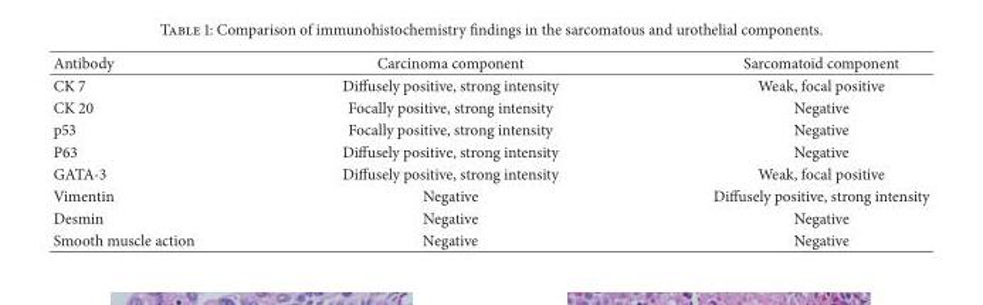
<table><thead><tr><td>Antibody</td><td>Carcinoma component</td><td>Sarcomatoid component</td></tr></thead><tbody><tr><td>CK 7</td><td>Diffusely positive, strong intensity</td><td>Weak, focal positive</td></tr><tr><td>CK 20</td><td>Focally positive, strong intensity</td><td>Negative</td></tr><tr><td>p53</td><td>Focally positive, strong intensity</td><td>Negative</td></tr><tr><td>P63</td><td>Diffusely positive, strong intensity</td><td>Negative</td></tr><tr><td>GATA-3</td><td>Diffusely positive, strong intensity</td><td>Weak, focal positive</td></tr><tr><td>Vimentin</td><td>Negative</td><td>Diffusely positive, strong intensity</td></tr><tr><td>Desmin</td><td>Negative</td><td>Negative</td></tr><tr><td>Smooth muscle action</td><td>Negative</td><td>Negative</td></tr></tbody></table>